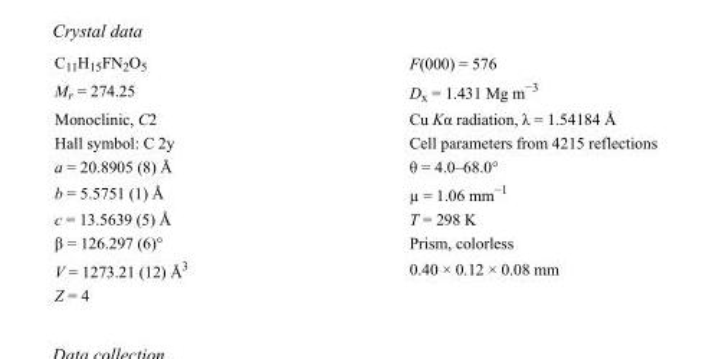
<table><tbody><tr><td>C<sub>11</sub>H<sub>15</sub>FN<sub>2</sub>O<sub>5</sub></td><td>F(000) = 576</td></tr><tr><td>M<sub>r</sub> = 274.25</td><td>D<sub>x</sub> = 1.431 Mg m<sup>−3</sup></td></tr><tr><td>Monoclinic, C2</td><td>Cu Kα radiation, λ = 1.54184 Å</td></tr><tr><td>Hall symbol: C 2y</td><td>Cell parameters from 4215 reflections</td></tr><tr><td>a = 20.8905 (8) Å</td><td>θ = 4.0–68.0°</td></tr><tr><td>b = 5.5751 (1) Å</td><td>µ = 1.06 mm<sup>−1</sup></td></tr><tr><td>c = 13.5639 (5) Å</td><td>T = 298 K</td></tr><tr><td>β = 126.297 (6)°</td><td>Prism, colorless</td></tr><tr><td>V = 1273.21 (12) Å<sup>3</sup></td><td>0.40 × 0.12 × 0.08 mm</td></tr><tr><td>Z = 4</td><td></td></tr></tbody></table>